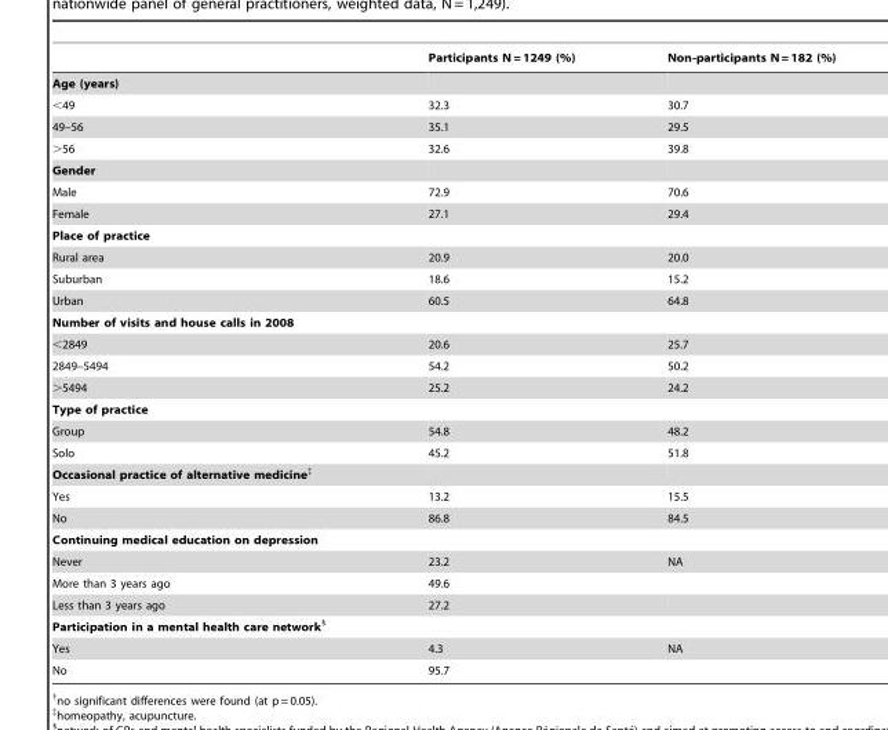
<table><thead><tr><td></td><td>Participants N = 1249 (%)</td><td>Non-participants N = 182 (%)</td></tr></thead><tbody><tr><td colspan="3">Age (years)</td></tr><tr><td>&lt;49</td><td>32.3</td><td>30.7</td></tr><tr><td>49–56</td><td>35.1</td><td>29.5</td></tr><tr><td>&gt;56</td><td>32.6</td><td>39.8</td></tr><tr><td colspan="3">Gender</td></tr><tr><td>Male</td><td>72.9</td><td>70.6</td></tr><tr><td>Female</td><td>27.1</td><td>29.4</td></tr><tr><td colspan="3">Place of practice</td></tr><tr><td>Rural area</td><td>20.9</td><td>20.0</td></tr><tr><td>Suburban</td><td>18.6</td><td>15.2</td></tr><tr><td>Urban</td><td>60.5</td><td>64.8</td></tr><tr><td colspan="3">Number of visits and house calls in 2008</td></tr><tr><td>&lt;2849</td><td>20.6</td><td>25.7</td></tr><tr><td>2849–5494</td><td>54.2</td><td>50.2</td></tr><tr><td>&gt;5494</td><td>25.2</td><td>24.2</td></tr><tr><td colspan="3">Type of practice</td></tr><tr><td>Group</td><td>54.8</td><td>48.2</td></tr><tr><td>Solo</td><td>45.2</td><td>51.8</td></tr><tr><td colspan="3">Occasional practice of alternative medicine‡</td></tr><tr><td>Yes</td><td>13.2</td><td>15.5</td></tr><tr><td>No</td><td>86.8</td><td>84.5</td></tr><tr><td colspan="3">Continuing medical education on depression</td></tr><tr><td>Never</td><td>23.2</td><td>NA</td></tr><tr><td>More than 3 years ago</td><td>49.6</td><td></td></tr><tr><td>Less than 3 years ago</td><td>27.2</td><td></td></tr><tr><td colspan="3">Participation in a mental health care network§</td></tr><tr><td>Yes</td><td>4.3</td><td>NA</td></tr><tr><td>No</td><td>95.7</td><td></td></tr></tbody></table>